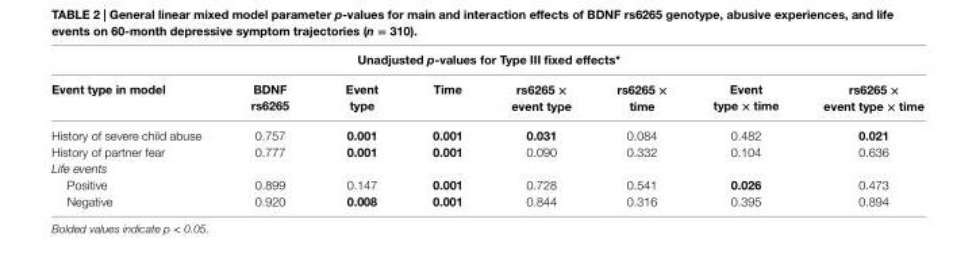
<table><thead><tr><td colspan="8">Unadjusted p-values for Type iii fixed effects*</td></tr><tr><td>event type in model</td><td>BDnF rs6265</td><td>event type</td><td>Time</td><td>rs6265 × event type</td><td>rs6265 × time</td><td>event type × time</td><td>rs6265 × event type × time</td></tr></thead><tbody><tr><td>History of severe child abuse</td><td>0.757</td><td>0.001</td><td>0.001</td><td>0.031</td><td>0.084</td><td>0.482</td><td>0.021</td></tr><tr><td>History of partner fear</td><td>0.777</td><td>0.001</td><td>0.001</td><td>0.090</td><td>0.332</td><td>0.104</td><td>0.636</td></tr><tr><td colspan="8">Life events</td></tr><tr><td>Positive</td><td>0.899</td><td>0.147</td><td>0.001</td><td>0.728</td><td>0.541</td><td>0.026</td><td>0.473</td></tr><tr><td>Negative</td><td>0.920</td><td>0.008</td><td>0.001</td><td>0.844</td><td>0.316</td><td>0.395</td><td>0.894</td></tr></tbody></table>